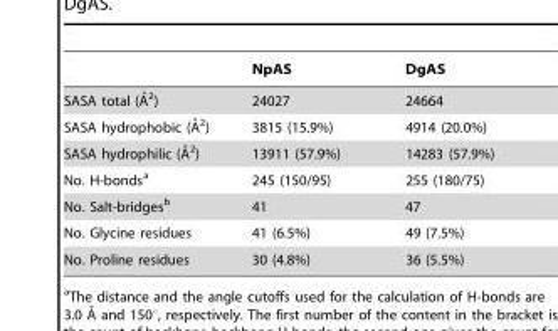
<table><thead><tr><td></td><td>NpAS</td><td>DgAS</td></tr></thead><tbody><tr><td>SASA total (A˚ 2)</td><td>24027</td><td>24664</td></tr><tr><td>SASA hydrophobic (A˚ 2)</td><td>3815 (15.9%)</td><td>4914 (20.0%)</td></tr><tr><td>SASA hydrophilic (A˚ 2)</td><td>13911 (57.9%)</td><td>14283 (57.9%)</td></tr><tr><td>No. H-bonds<sup>a</sup></td><td>245 (150/95)</td><td>255 (180/75)</td></tr><tr><td>No. Salt-bridges<sup>b</sup></td><td>41</td><td>47</td></tr><tr><td>No. Glycine residues</td><td>41 (6.5%)</td><td>49 (7.5%)</td></tr><tr><td>No. Proline residues</td><td>30 (4.8%)</td><td>36 (5.5%)</td></tr></tbody></table>